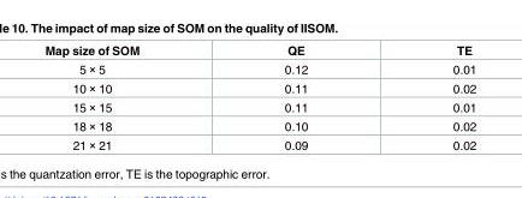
<table><thead><tr><td>Map size of SOM</td><td>QE</td><td>TE</td></tr></thead><tbody><tr><td>5 × 5</td><td>0.12</td><td>0.01</td></tr><tr><td>10 × 10</td><td>0.11</td><td>0.02</td></tr><tr><td>15 × 15</td><td>0.11</td><td>0.01</td></tr><tr><td>18 × 18</td><td>0.10</td><td>0.02</td></tr><tr><td>21 × 21</td><td>0.09</td><td>0.02</td></tr></tbody></table>